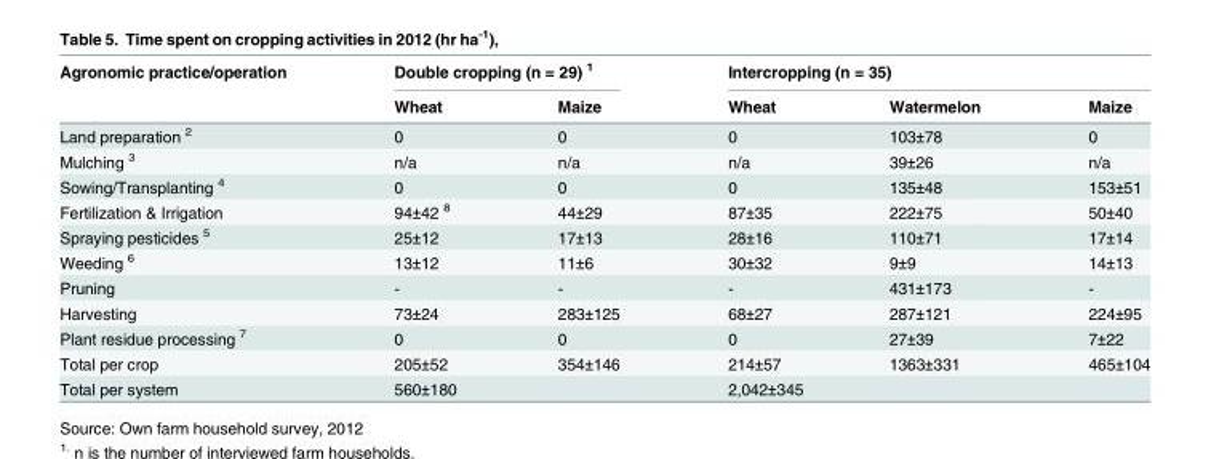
<table><thead><tr><td rowspan="2">Agronomic practice/operation</td><td colspan="2">Double cropping (n = 29) <sup>1</sup></td><td colspan="3">Intercropping (n = 35)</td></tr><tr><td>Wheat</td><td>Maize</td><td>Wheat</td><td>Watermelon</td><td>Maize</td></tr></thead><tbody><tr><td>Land preparation <sup>2</sup></td><td>0</td><td>0</td><td>0</td><td>103±78</td><td>0</td></tr><tr><td>Mulching <sup>3</sup></td><td>n/a</td><td>n/a</td><td>n/a</td><td>39±26</td><td>n/a</td></tr><tr><td>Sowing/Transplanting <sup>4</sup></td><td>0</td><td>0</td><td>0</td><td>135±48</td><td>153±51</td></tr><tr><td>Fertilization &amp; Irrigation</td><td>94±42 <sup>8</sup></td><td>44±29</td><td>87±35</td><td>222±75</td><td>50±40</td></tr><tr><td>Spraying pesticides <sup>5</sup></td><td>25±12</td><td>17±13</td><td>28±16</td><td>110±71</td><td>17±14</td></tr><tr><td>Weeding <sup>6</sup></td><td>13±12</td><td>11±6</td><td>30±32</td><td>9±9</td><td>14±13</td></tr><tr><td>Pruning</td><td>-</td><td>-</td><td>-</td><td>431±173</td><td>-</td></tr><tr><td>Harvesting</td><td>73±24</td><td>283±125</td><td>68±27</td><td>287±121</td><td>224±95</td></tr><tr><td>Plant residue processing <sup>7</sup></td><td>0</td><td>0</td><td>0</td><td>27±39</td><td>7±22</td></tr><tr><td>Total per crop</td><td>205±52</td><td>354±146</td><td>214±57</td><td>1363±331</td><td>465±104</td></tr><tr><td>Total per system</td><td colspan="2">560±180</td><td colspan="3">2,042±345</td></tr></tbody></table>